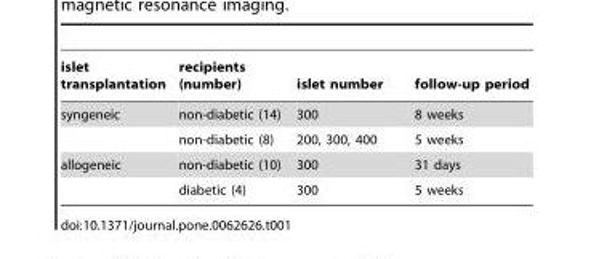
<table><thead><tr><td>islet transplantation</td><td>recipients (number)</td><td>islet number</td><td>follow-up period</td></tr></thead><tbody><tr><td rowspan="2">syngeneic</td><td>non-diabetic (14)</td><td>300</td><td>8 weeks</td></tr><tr><td>non-diabetic (8)</td><td>200, 300, 400</td><td>5 weeks</td></tr><tr><td rowspan="2">allogeneic</td><td>non-diabetic (10)</td><td>300</td><td>31 days</td></tr><tr><td>diabetic (4)</td><td>300</td><td>5 weeks</td></tr></tbody></table>